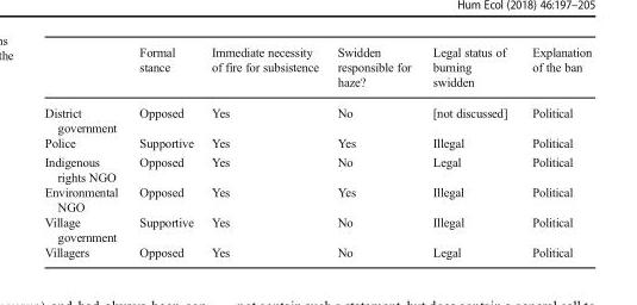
<table><thead><tr><td></td><td>Formal stance</td><td>Immediate necessity of fire for subsistence</td><td>Swidden responsible for haze?</td><td>Legal status of burning swidden</td><td>Explanation of the ban</td></tr></thead><tbody><tr><td>District government</td><td>Opposed</td><td>Yes</td><td>No</td><td>[not discussed]</td><td>Political</td></tr><tr><td>Police</td><td>Supportive</td><td>Yes</td><td>Yes</td><td>Illegal</td><td>Political</td></tr><tr><td>Indigenous rights NGO</td><td>Opposed</td><td>Yes</td><td>No</td><td>Legal</td><td>Political</td></tr><tr><td>Environmental NGO</td><td>Opposed</td><td>Yes</td><td>Yes</td><td>Illegal</td><td>Political</td></tr><tr><td>Village government</td><td>Supportive</td><td>Yes</td><td>No</td><td>Illegal</td><td>Political</td></tr><tr><td>Villagers</td><td>Opposed</td><td>Yes</td><td>No</td><td>Legal</td><td>Political</td></tr></tbody></table>